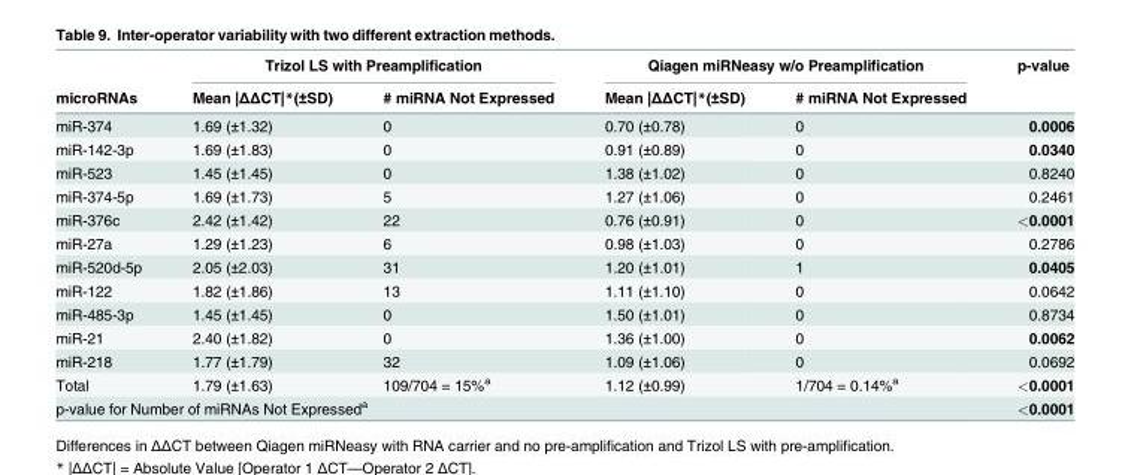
<table><thead><tr><td rowspan="2">microRNAs</td><td colspan="2">Trizol LS with Preamplification</td><td colspan="2">Qiagen miRNeasy w/o Preamplification</td><td rowspan="2">p-value</td></tr><tr><td>Mean |ΔΔCT|*(±SD)</td><td># miRNA Not Expressed</td><td>Mean |ΔΔCT|*(±SD)</td><td># miRNA Not Expressed</td></tr></thead><tbody><tr><td>miR-374</td><td>1.69 (±1.32)</td><td>0</td><td>0.70 (±0.78)</td><td>0</td><td>0.0006</td></tr><tr><td>miR-142-3p</td><td>1.69 (±1.83)</td><td>0</td><td>0.91 (±0.89)</td><td>0</td><td>0.0340</td></tr><tr><td>miR-523</td><td>1.45 (±1.45)</td><td>0</td><td>1.38 (±1.02)</td><td>0</td><td>0.8240</td></tr><tr><td>miR-374-5p</td><td>1.69 (±1.73)</td><td>5</td><td>1.27 (±1.06)</td><td>0</td><td>0.2461</td></tr><tr><td>miR-376c</td><td>2.42 (±1.42)</td><td>22</td><td>0.76 (±0.91)</td><td>0</td><td>&lt;0.0001</td></tr><tr><td>miR-27a</td><td>1.29 (±1.23)</td><td>6</td><td>0.98 (±1.03)</td><td>0</td><td>0.2786</td></tr><tr><td>miR-520d-5p</td><td>2.05 (±2.03)</td><td>31</td><td>1.20 (±1.01)</td><td>1</td><td>0.0405</td></tr><tr><td>miR-122</td><td>1.82 (±1.86)</td><td>13</td><td>1.11 (±1.10)</td><td>0</td><td>0.0642</td></tr><tr><td>miR-485-3p</td><td>1.45 (±1.45)</td><td>0</td><td>1.50 (±1.01)</td><td>0</td><td>0.8734</td></tr><tr><td>miR-21</td><td>2.40 (±1.82)</td><td>0</td><td>1.36 (±1.00)</td><td>0</td><td>0.0062</td></tr><tr><td>miR-218</td><td>1.77 (±1.79)</td><td>32</td><td>1.09 (±1.06)</td><td>0</td><td>0.0692</td></tr><tr><td>Total</td><td>1.79 (±1.63)</td><td>109/704 = 15%<sup>a</sup></td><td>1.12 (±0.99)</td><td>1/704 = 0.14%<sup>a</sup></td><td>&lt;0.0001</td></tr><tr><td colspan="5">p-value for Number of miRNAs Not Expressed<sup>a</sup></td><td>&lt;0.0001</td></tr></tbody></table>